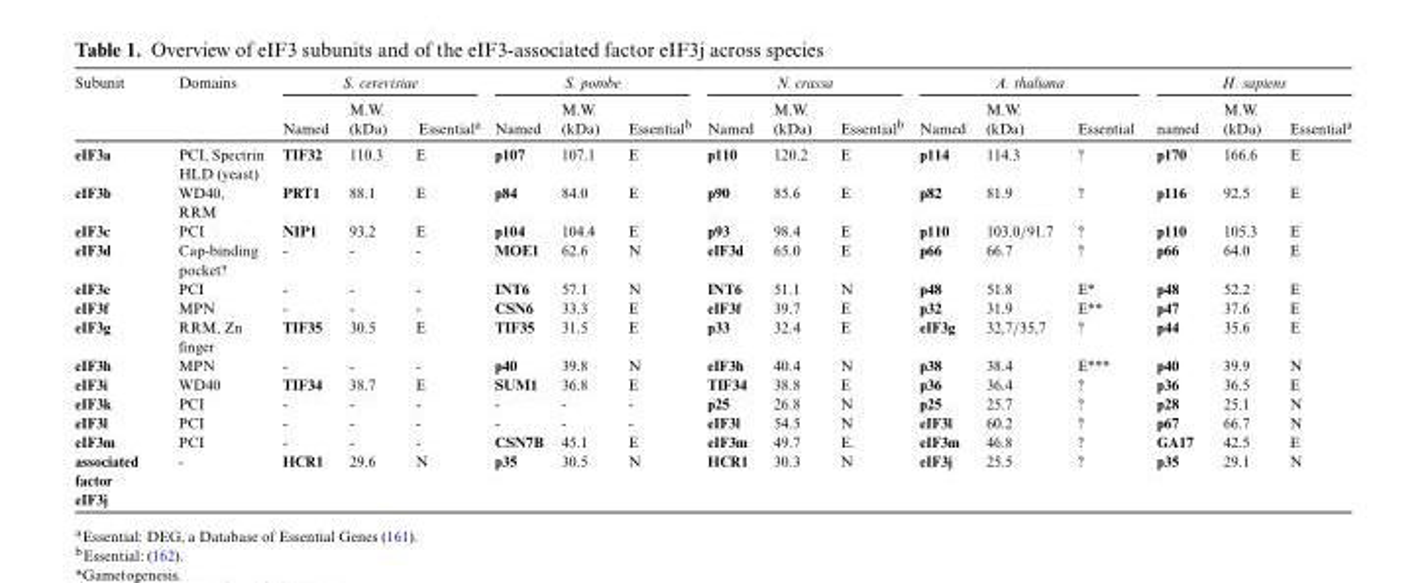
<table><thead><tr><td rowspan="2">Subunit</td><td rowspan="2">Domains</td><td colspan="3">S. cerevisiae</td><td colspan="3">S. pombe</td><td colspan="3">N. crassa</td><td colspan="3">A. thaliana</td><td colspan="3">H. sapiens</td></tr><tr><td>Named</td><td>M.W. (kDa)</td><td>Essential<sup>a</sup></td><td>Named</td><td>M.W. (kDa)</td><td>Essential<sup>b</sup></td><td>Named</td><td>M.W. (kDa)</td><td>Essential<sup>b</sup></td><td>Named</td><td>M.W. (kDa)</td><td>Essential</td><td>named</td><td>M.W. (kDa)</td><td>Essential<sup>a</sup></td></tr></thead><tbody><tr><td>eIF3a</td><td>PCI, Spectrin HLD (yeast)</td><td>TIF32</td><td>110.3</td><td>E</td><td>p107</td><td>107.1</td><td>E</td><td>p110</td><td>120.2</td><td>E</td><td>p114</td><td>114.3</td><td>?</td><td>p170</td><td>166.6</td><td>E</td></tr><tr><td>eIF3b</td><td>WD40, RRM</td><td>PRT1</td><td>88.1</td><td>E</td><td>p84</td><td>84.0</td><td>E</td><td>p90</td><td>85.6</td><td>E</td><td>p82</td><td>81.9</td><td>?</td><td>p116</td><td>92.5</td><td>E</td></tr><tr><td>eIF3c</td><td>PCI</td><td>NIP1</td><td>93.2</td><td>E</td><td>p104</td><td>104.4</td><td>E</td><td>p93</td><td>98.4</td><td>E</td><td>p110</td><td>103.0/91.7</td><td>?</td><td>p110</td><td>105.3</td><td>E</td></tr><tr><td>eIF3d</td><td>Cap-binding pocket?</td><td>-</td><td>-</td><td>-</td><td>MOE1</td><td>62.6</td><td>N</td><td>eIF3d</td><td>65.0</td><td>E</td><td>p66</td><td>66.7</td><td>?</td><td>p66</td><td>64.0</td><td>E</td></tr><tr><td>eIF3e</td><td>PCI</td><td>-</td><td>-</td><td>-</td><td>INT6</td><td>57.1</td><td>N</td><td>INT6</td><td>51.1</td><td>N</td><td>p48</td><td>51.8</td><td>E*</td><td>p48</td><td>52.2</td><td>E</td></tr><tr><td>eIF3f</td><td>MPN</td><td>-</td><td>-</td><td>-</td><td>CSN6</td><td>33.3</td><td>E</td><td>eIF3f</td><td>39.7</td><td>E</td><td>p32</td><td>31.9</td><td>E**</td><td>p47</td><td>37.6</td><td>E</td></tr><tr><td>eIF3g</td><td>RRM, Zn finger</td><td>TIF35</td><td>30.5</td><td>E</td><td>TIF35</td><td>31.5</td><td>E</td><td>p33</td><td>32.4</td><td>E</td><td>eIF3g</td><td>32,7/35,7</td><td>?</td><td>p44</td><td>35.6</td><td>E</td></tr><tr><td>eIF3h</td><td>MPN</td><td>-</td><td>-</td><td>-</td><td>p40</td><td>39.8</td><td>N</td><td>eIF3h</td><td>40.4</td><td>N</td><td>p38</td><td>38.4</td><td>E***</td><td>p40</td><td>39.9</td><td>N</td></tr><tr><td>eIF3i</td><td>WD40</td><td>TIF34</td><td>38.7</td><td>E</td><td>SUM1</td><td>36.8</td><td>E</td><td>TIF34</td><td>38.8</td><td>E</td><td>p36</td><td>36.4</td><td>?</td><td>p36</td><td>36.5</td><td>E</td></tr><tr><td>eIF3k</td><td>PCI</td><td>-</td><td>-</td><td>-</td><td>-</td><td>-</td><td>-</td><td>p25</td><td>26.8</td><td>N</td><td>p25</td><td>25.7</td><td>?</td><td>p28</td><td>25.1</td><td>N</td></tr><tr><td>eIF3l</td><td>PCI</td><td>-</td><td>-</td><td>-</td><td>-</td><td>-</td><td>-</td><td>eIF3l</td><td>54.5</td><td>N</td><td>eIF3l</td><td>60.2</td><td>?</td><td>p67</td><td>66.7</td><td>N</td></tr><tr><td>eIF3m</td><td>PCI</td><td>-</td><td>-</td><td>-</td><td>CSN7B</td><td>45.1</td><td>E</td><td>eIF3m</td><td>49.7</td><td>E.</td><td>eIF3m</td><td>46.8</td><td>?</td><td>GA17</td><td>42.5</td><td>E</td></tr><tr><td>associated factor</td><td>-</td><td>HCR1</td><td>29.6</td><td>N</td><td>p35</td><td>30.5</td><td>N</td><td>HCR1</td><td>30.3</td><td>N</td><td>eIF3j</td><td>25.5</td><td>?</td><td>p35</td><td>29.1</td><td>N</td></tr><tr><td>eIF3j</td><td></td><td></td><td></td><td></td><td></td><td></td><td></td><td></td><td></td><td></td><td></td><td></td><td></td><td></td><td></td><td></td></tr></tbody></table>